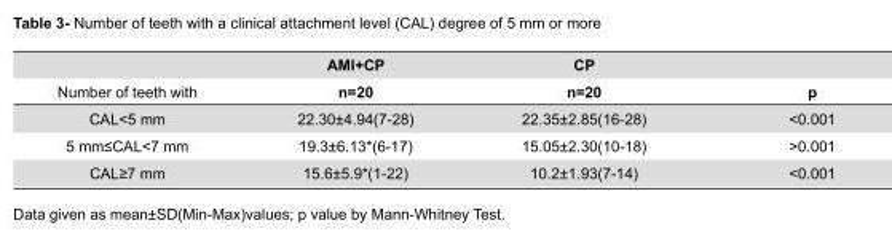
<table><thead><tr><td rowspan="2">Number of teeth with</td><td rowspan="2">AMI+CP n=20</td><td rowspan="2">CP n=20</td><td rowspan="2">p</td></tr><tr></tr></thead><tbody><tr><td>CAL&lt;5 mm</td><td>22.30±4.94(7-28)</td><td>22.35±2.85(16-28)</td><td>&lt;0.001</td></tr><tr><td>5 mm≤CAL&lt;7 mm</td><td>19.3±6.13*(6-17)</td><td>15.05±2.30(10-18)</td><td>&gt;0.001</td></tr><tr><td>CAL≥7 mm</td><td>15.6±5.9*(1-22)</td><td>10.2±1.93(7-14)</td><td>&lt;0.001</td></tr></tbody></table>